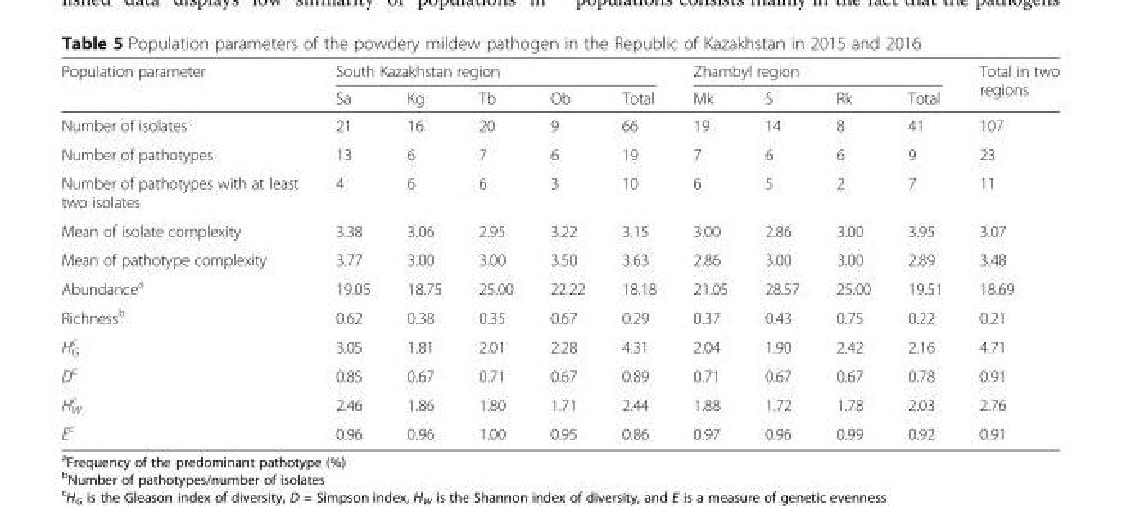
<table><thead><tr><td rowspan="2">Population parameter</td><td colspan="5">South Kazakhstan region</td><td colspan="4">Zhambyl region</td><td rowspan="2">Total in two regions</td></tr><tr><td>Sa</td><td>Kg</td><td>Tb</td><td>Ob</td><td>Total</td><td>Mk</td><td>S</td><td>Rk</td><td>Total</td></tr></thead><tbody><tr><td>Number of isolates</td><td>21</td><td>16</td><td>20</td><td>9</td><td>66</td><td>19</td><td>14</td><td>8</td><td>41</td><td>107</td></tr><tr><td>Number of pathotypes</td><td>13</td><td>6</td><td>7</td><td>6</td><td>19</td><td>7</td><td>6</td><td>6</td><td>9</td><td>23</td></tr><tr><td>Number of pathotypes with at least two isolates</td><td>4</td><td>6</td><td>6</td><td>3</td><td>10</td><td>6</td><td>5</td><td>2</td><td>7</td><td>11</td></tr><tr><td>Mean of isolate complexity</td><td>3.38</td><td>3.06</td><td>2.95</td><td>3.22</td><td>3.15</td><td>3.00</td><td>2.86</td><td>3.00</td><td>3.95</td><td>3.07</td></tr><tr><td>Mean of pathotype complexity</td><td>3.77</td><td>3.00</td><td>3.00</td><td>3.50</td><td>3.63</td><td>2.86</td><td>3.00</td><td>3.00</td><td>2.89</td><td>3.48</td></tr><tr><td>Abundance<sup>a</sup></td><td>19.05</td><td>18.75</td><td>25.00</td><td>22.22</td><td>18.18</td><td>21.05</td><td>28.57</td><td>25.00</td><td>19.51</td><td>18.69</td></tr><tr><td>Richness<sup>b</sup></td><td>0.62</td><td>0.38</td><td>0.35</td><td>0.67</td><td>0.29</td><td>0.37</td><td>0.43</td><td>0.75</td><td>0.22</td><td>0.21</td></tr><tr><td>H<sub>G</sub> <sup>c</sup></td><td>3.05</td><td>1.81</td><td>2.01</td><td>2.28</td><td>4.31</td><td>2.04</td><td>1.90</td><td>2.42</td><td>2.16</td><td>4.71</td></tr><tr><td>D<sup>c</sup></td><td>0.85</td><td>0.67</td><td>0.71</td><td>0.67</td><td>0.89</td><td>0.71</td><td>0.67</td><td>0.67</td><td>0.78</td><td>0.91</td></tr><tr><td>H<sub>W</sub> <sup>c</sup></td><td>2.46</td><td>1.86</td><td>1.80</td><td>1.71</td><td>2.44</td><td>1.88</td><td>1.72</td><td>1.78</td><td>2.03</td><td>2.76</td></tr><tr><td>E<sup>c</sup></td><td>0.96</td><td>0.96</td><td>1.00</td><td>0.95</td><td>0.86</td><td>0.97</td><td>0.96</td><td>0.99</td><td>0.92</td><td>0.91</td></tr></tbody></table>